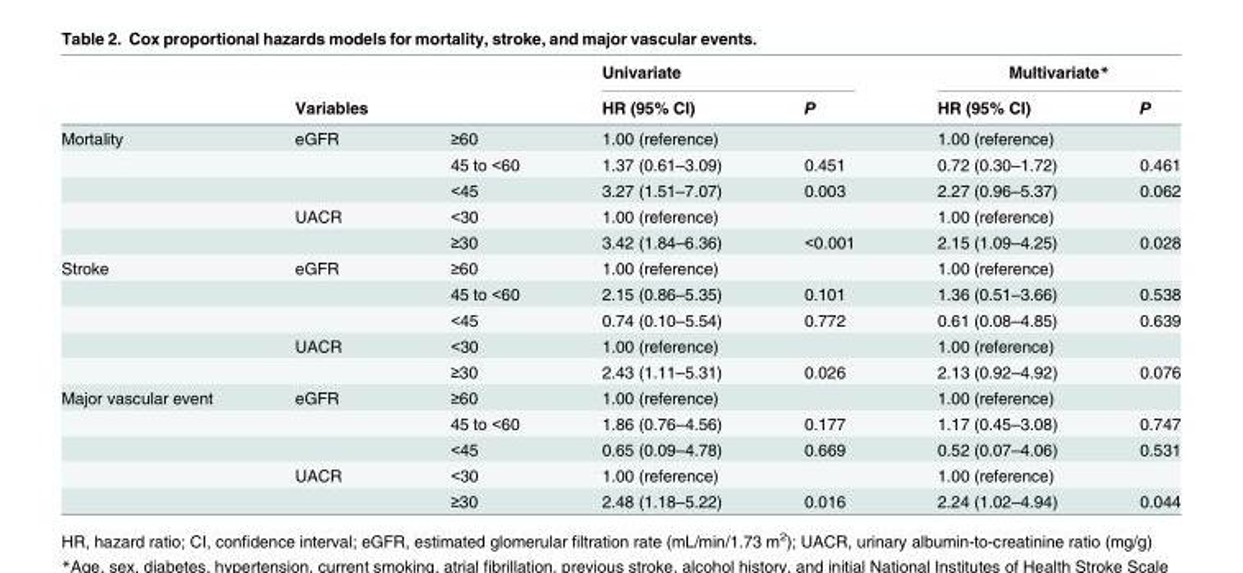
<table><thead><tr><td rowspan="2"></td><td rowspan="2">Variables</td><td rowspan="2"></td><td colspan="2">Univariate</td><td colspan="2">Multivariate*</td></tr><tr><td>HR (95% CI)</td><td>P</td><td>HR (95% CI)</td><td>P</td></tr></thead><tbody><tr><td rowspan="5">Mortality</td><td>eGFR</td><td>≥60</td><td>1.00 (reference)</td><td></td><td>1.00 (reference)</td><td></td></tr><tr><td></td><td>45 to &lt;60</td><td>1.37 (0.61–3.09)</td><td>0.451</td><td>0.72 (0.30–1.72)</td><td>0.461</td></tr><tr><td></td><td>&lt;45</td><td>3.27 (1.51–7.07)</td><td>0.003</td><td>2.27 (0.96–5.37)</td><td>0.062</td></tr><tr><td>UACR</td><td>&lt;30</td><td>1.00 (reference)</td><td></td><td>1.00 (reference)</td><td></td></tr><tr><td></td><td>≥30</td><td>3.42 (1.84–6.36)</td><td>&lt;0.001</td><td>2.15 (1.09–4.25)</td><td>0.028</td></tr><tr><td rowspan="5">Stroke</td><td>eGFR</td><td>≥60</td><td>1.00 (reference)</td><td></td><td>1.00 (reference)</td><td></td></tr><tr><td></td><td>45 to &lt;60</td><td>2.15 (0.86–5.35)</td><td>0.101</td><td>1.36 (0.51–3.66)</td><td>0.538</td></tr><tr><td></td><td>&lt;45</td><td>0.74 (0.10–5.54)</td><td>0.772</td><td>0.61 (0.08–4.85)</td><td>0.639</td></tr><tr><td>UACR</td><td>&lt;30</td><td>1.00 (reference)</td><td></td><td>1.00 (reference)</td><td></td></tr><tr><td></td><td>≥30</td><td>2.43 (1.11–5.31)</td><td>0.026</td><td>2.13 (0.92–4.92)</td><td>0.076</td></tr><tr><td rowspan="5">Major vascular event</td><td>eGFR</td><td>≥60</td><td>1.00 (reference)</td><td></td><td>1.00 (reference)</td><td></td></tr><tr><td></td><td>45 to &lt;60</td><td>1.86 (0.76–4.56)</td><td>0.177</td><td>1.17 (0.45–3.08)</td><td>0.747</td></tr><tr><td></td><td>&lt;45</td><td>0.65 (0.09–4.78)</td><td>0.669</td><td>0.52 (0.07–4.06)</td><td>0.531</td></tr><tr><td>UACR</td><td>&lt;30</td><td>1.00 (reference)</td><td></td><td>1.00 (reference)</td><td></td></tr><tr><td></td><td>≥30</td><td>2.48 (1.18–5.22)</td><td>0.016</td><td>2.24 (1.02–4.94)</td><td>0.044</td></tr></tbody></table>